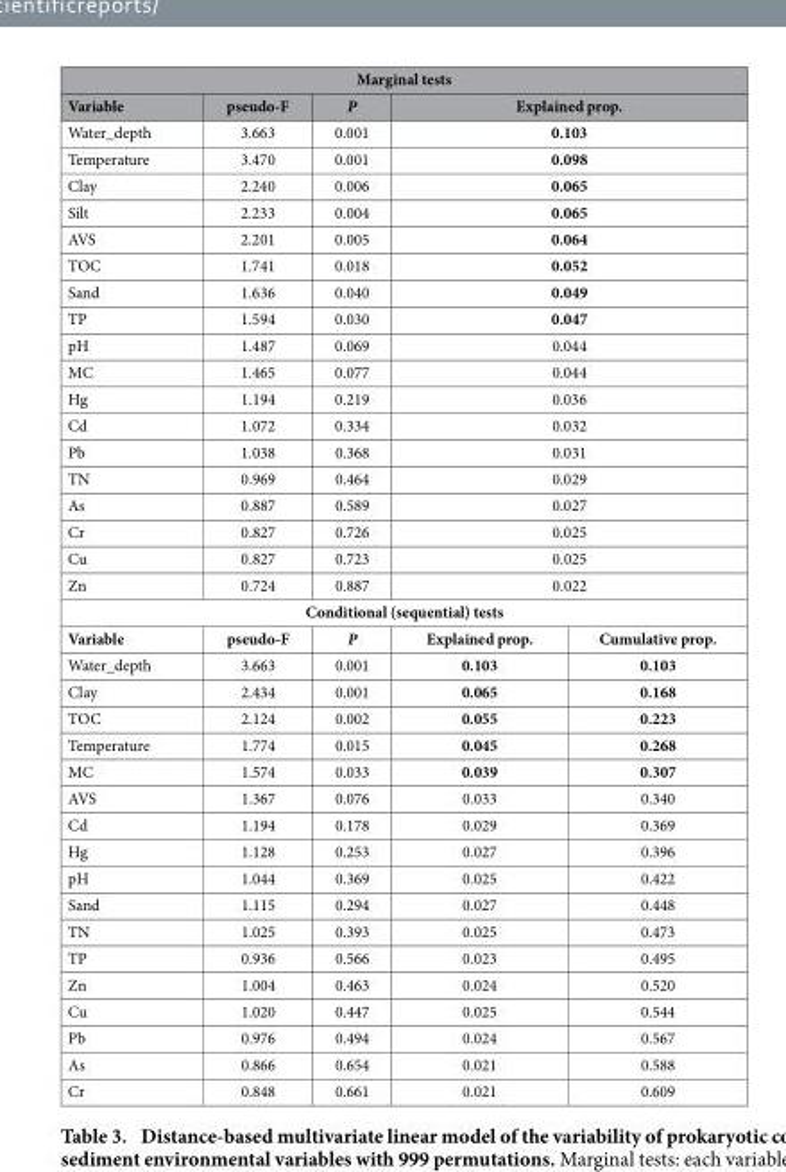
<table><thead><tr><td colspan="5">Marginal tests</td></tr><tr><td>Variable</td><td>pseudo-F</td><td>P</td><td colspan="2">Explained prop.</td></tr></thead><tbody><tr><td>Water_depth</td><td>3.663</td><td>0.001</td><td colspan="2">0.103</td></tr><tr><td>Temperature</td><td>3.470</td><td>0.001</td><td colspan="2">0.098</td></tr><tr><td>Clay</td><td>2.240</td><td>0.006</td><td colspan="2">0.065</td></tr><tr><td>Silt</td><td>2.233</td><td>0.004</td><td colspan="2">0.065</td></tr><tr><td>AVS</td><td>2.201</td><td>0.005</td><td colspan="2">0.064</td></tr><tr><td>TOC</td><td>1.741</td><td>0.018</td><td colspan="2">0.052</td></tr><tr><td>Sand</td><td>1.636</td><td>0.040</td><td colspan="2">0.049</td></tr><tr><td>TP</td><td>1.594</td><td>0.030</td><td colspan="2">0.047</td></tr><tr><td>pH</td><td>1.487</td><td>0.069</td><td colspan="2">0.044</td></tr><tr><td>MC</td><td>1.465</td><td>0.077</td><td colspan="2">0.044</td></tr><tr><td>Hg</td><td>1.194</td><td>0.219</td><td colspan="2">0.036</td></tr><tr><td>Cd</td><td>1.072</td><td>0.334</td><td colspan="2">0.032</td></tr><tr><td>Pb</td><td>1.038</td><td>0.368</td><td colspan="2">0.031</td></tr><tr><td>TN</td><td>0.969</td><td>0.464</td><td colspan="2">0.029</td></tr><tr><td>As</td><td>0.887</td><td>0.589</td><td colspan="2">0.027</td></tr><tr><td>Cr</td><td>0.827</td><td>0.726</td><td colspan="2">0.025</td></tr><tr><td>Cu</td><td>0.827</td><td>0.723</td><td colspan="2">0.025</td></tr><tr><td>Zn</td><td>0.724</td><td>0.887</td><td colspan="2">0.022</td></tr><tr><td colspan="5">Conditional (sequential) tests</td></tr><tr><td>Variable</td><td>pseudo-F</td><td>P</td><td>Explained prop.</td><td>Cumulative prop.</td></tr><tr><td>Water_depth</td><td>3.663</td><td>0.001</td><td>0.103</td><td>0.103</td></tr><tr><td>Clay</td><td>2.434</td><td>0.001</td><td>0.065</td><td>0.168</td></tr><tr><td>TOC</td><td>2.124</td><td>0.002</td><td>0.055</td><td>0.223</td></tr><tr><td>Temperature</td><td>1.774</td><td>0.015</td><td>0.045</td><td>0.268</td></tr><tr><td>MC</td><td>1.574</td><td>0.033</td><td>0.039</td><td>0.307</td></tr><tr><td>AVS</td><td>1.367</td><td>0.076</td><td>0.033</td><td>0.340</td></tr><tr><td>Cd</td><td>1.194</td><td>0.178</td><td>0.029</td><td>0.369</td></tr><tr><td>Hg</td><td>1.128</td><td>0.253</td><td>0.027</td><td>0.396</td></tr><tr><td>pH</td><td>1.044</td><td>0.369</td><td>0.025</td><td>0.422</td></tr><tr><td>Sand</td><td>1.115</td><td>0.294</td><td>0.027</td><td>0.448</td></tr><tr><td>TN</td><td>1.025</td><td>0.393</td><td>0.025</td><td>0.473</td></tr><tr><td>TP</td><td>0.936</td><td>0.566</td><td>0.023</td><td>0.495</td></tr><tr><td>Zn</td><td>1.004</td><td>0.463</td><td>0.024</td><td>0.520</td></tr><tr><td>Cu</td><td>1.020</td><td>0.447</td><td>0.025</td><td>0.544</td></tr><tr><td>Pb</td><td>0.976</td><td>0.494</td><td>0.024</td><td>0.567</td></tr><tr><td>As</td><td>0.866</td><td>0.654</td><td>0.021</td><td>0.588</td></tr><tr><td>Cr</td><td>0.848</td><td>0.661</td><td>0.021</td><td>0.609</td></tr></tbody></table>